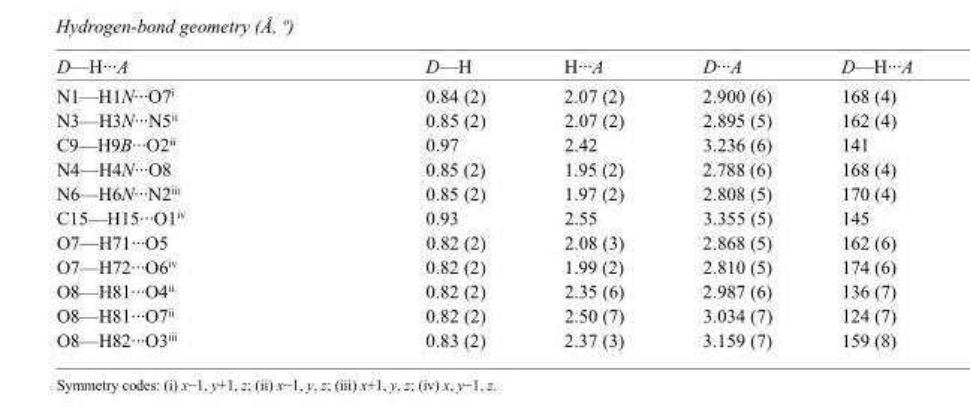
<table><tbody><tr><td>D—H···A</td><td>D—H</td><td>H···A</td><td>D···A</td><td>D—H···A</td></tr><tr><td>N1—H1N···O7<sup>i</sup></td><td>0.84 (2)</td><td>2.07 (2)</td><td>2.900 (6)</td><td>168 (4)</td></tr><tr><td>N3—H3N···N5<sup>ii</sup></td><td>0.85 (2)</td><td>2.07 (2)</td><td>2.895 (5)</td><td>162 (4)</td></tr><tr><td>C9—H9B···O2<sup>ii</sup></td><td>0.97</td><td>2.42</td><td>3.236 (6)</td><td>141</td></tr><tr><td>N4—H4N···O8</td><td>0.85 (2)</td><td>1.95 (2)</td><td>2.788 (6)</td><td>168 (4)</td></tr><tr><td>N6—H6N···N2<sup>iii</sup></td><td>0.85 (2)</td><td>1.97 (2)</td><td>2.808 (5)</td><td>170 (4)</td></tr><tr><td>C15—H15···O1<sup>iv</sup></td><td>0.93</td><td>2.55</td><td>3.355 (5)</td><td>145</td></tr><tr><td>O7—H71···O5</td><td>0.82 (2)</td><td>2.08 (3)</td><td>2.868 (5)</td><td>162 (6)</td></tr><tr><td>O7—H72···O6<sup>iv</sup></td><td>0.82 (2)</td><td>1.99 (2)</td><td>2.810 (5)</td><td>174 (6)</td></tr><tr><td>O8—H81···O4<sup>ii</sup></td><td>0.82 (2)</td><td>2.35 (6)</td><td>2.987 (6)</td><td>136 (7)</td></tr><tr><td>O8—H81···O7<sup>ii</sup></td><td>0.82 (2)</td><td>2.50 (7)</td><td>3.034 (7)</td><td>124 (7)</td></tr><tr><td>O8—H82···O3<sup>iii</sup></td><td>0.83 (2)</td><td>2.37 (3)</td><td>3.159 (7)</td><td>159 (8)</td></tr></tbody></table>